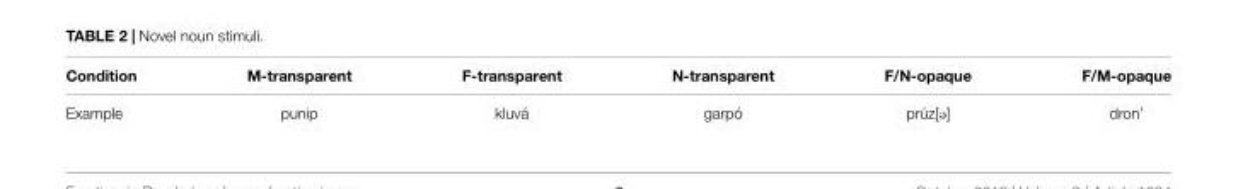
<table><thead><tr><td>Condition</td><td>M-transparent</td><td>F-transparent</td><td>N-transparent</td><td>F/N-opaque</td><td>F/M-opaque</td></tr></thead><tbody><tr><td>Example</td><td>punip</td><td>kluvá</td><td>garpó</td><td>prúz[@]</td><td>dron’</td></tr></tbody></table>